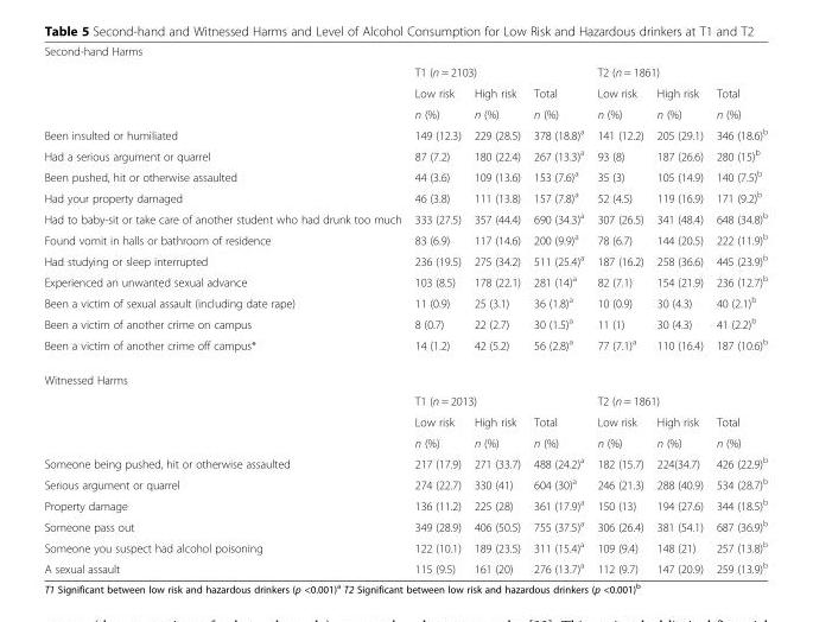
<table><tbody><tr><td colspan="7">Second-hand Harms</td></tr><tr><td></td><td colspan="3">T1 (n = 2103)</td><td colspan="3">T2 (n = 1861)</td></tr><tr><td rowspan="2"></td><td>Low risk</td><td>High risk</td><td>Total</td><td>Low risk</td><td>High risk</td><td>Total</td></tr><tr><td>n (%)</td><td>n (%)</td><td>n (%)</td><td>n (%)</td><td>n (%)</td><td>n (%)</td></tr><tr><td>Been insulted or humiliated</td><td>149 (12.3)</td><td>229 (28.5)</td><td>378 (18.8)<sup>a</sup></td><td>141 (12.2)</td><td>205 (29.1)</td><td>346 (18.6)<sup>b</sup></td></tr><tr><td>Had a serious argument or quarrel</td><td>87 (7.2)</td><td>180 (22.4)</td><td>267 (13.3)<sup>a</sup></td><td>93 (8)</td><td>187 (26.6)</td><td>280 (15)<sup>b</sup></td></tr><tr><td>Been pushed, hit or otherwise assaulted</td><td>44 (3.6)</td><td>109 (13.6)</td><td>153 (7.6)<sup>a</sup></td><td>35 (3)</td><td>105 (14.9)</td><td>140 (7.5)<sup>b</sup></td></tr><tr><td>Had your property damaged</td><td>46 (3.8)</td><td>111 (13.8)</td><td>157 (7.8)<sup>a</sup></td><td>52 (4.5)</td><td>119 (16.9)</td><td>171 (9.2)<sup>b</sup></td></tr><tr><td>Had to baby-sit or take care of another student who had drunk too much</td><td>333 (27.5)</td><td>357 (44.4)</td><td>690 (34.3)<sup>a</sup></td><td>307 (26.5)</td><td>341 (48.4)</td><td>648 (34.8)<sup>b</sup></td></tr><tr><td>Found vomit in halls or bathroom of residence</td><td>83 (6.9)</td><td>117 (14.6)</td><td>200 (9.9)<sup>a</sup></td><td>78 (6.7)</td><td>144 (20.5)</td><td>222 (11.9)<sup>b</sup></td></tr><tr><td>Had studying or sleep interrupted</td><td>236 (19.5)</td><td>275 (34.2)</td><td>511 (25.4)<sup>a</sup></td><td>187 (16.2)</td><td>258 (36.6)</td><td>445 (23.9)<sup>b</sup></td></tr><tr><td>Experienced an unwanted sexual advance</td><td>103 (8.5)</td><td>178 (22.1)</td><td>281 (14)<sup>a</sup></td><td>82 (7.1)</td><td>154 (21.9)</td><td>236 (12.7)<sup>b</sup></td></tr><tr><td>Been a victim of sexual assault (including date rape)</td><td>11 (0.9)</td><td>25 (3.1)</td><td>36 (1.8)<sup>a</sup></td><td>10 (0.9)</td><td>30 (4.3)</td><td>40 (2.1)<sup>b</sup></td></tr><tr><td>Been a victim of another crime on campus</td><td>8 (0.7)</td><td>22 (2.7)</td><td>30 (1.5)<sup>a</sup></td><td>11 (1)</td><td>30 (4.3)</td><td>41 (2.2)<sup>b</sup></td></tr><tr><td>Been a victim of another crime off campus*</td><td>14 (1.2)</td><td>42 (5.2)</td><td>56 (2.8)<sup>a</sup></td><td>77 (7.1)<sup>a</sup></td><td>110 (16.4)</td><td>187 (10.6)<sup>b</sup></td></tr><tr><td colspan="7">Witnessed Harms</td></tr><tr><td></td><td colspan="3">T1 (n = 2013)</td><td colspan="3">T2 (n = 1861)</td></tr><tr><td rowspan="2"></td><td>Low risk</td><td>High risk</td><td>Total</td><td>Low risk</td><td>High risk</td><td>Total</td></tr><tr><td>n (%)</td><td>n (%)</td><td>n (%)</td><td>n (%)</td><td>n (%)</td><td>n (%)</td></tr><tr><td>Someone being pushed, hit or otherwise assaulted</td><td>217 (17.9)</td><td>271 (33.7)</td><td>488 (24.2)<sup>a</sup></td><td>182 (15.7)</td><td>224(34.7)</td><td>426 (22.9)<sup>b</sup></td></tr><tr><td>Serious argument or quarrel</td><td>274 (22.7)</td><td>330 (41)</td><td>604 (30)<sup>a</sup></td><td>246 (21.3)</td><td>288 (40.9)</td><td>534 (28.7)<sup>b</sup></td></tr><tr><td>Property damage</td><td>136 (11.2)</td><td>225 (28)</td><td>361 (17.9)<sup>a</sup></td><td>150 (13)</td><td>194 (27.6)</td><td>344 (18.5)<sup>b</sup></td></tr><tr><td>Someone pass out</td><td>349 (28.9)</td><td>406 (50.5)</td><td>755 (37.5)<sup>a</sup></td><td>306 (26.4)</td><td>381 (54.1)</td><td>687 (36.9)<sup>b</sup></td></tr><tr><td>Someone you suspect had alcohol poisoning</td><td>122 (10.1)</td><td>189 (23.5)</td><td>311 (15.4)<sup>a</sup></td><td>109 (9.4)</td><td>148 (21)</td><td>257 (13.8)<sup>b</sup></td></tr><tr><td>A sexual assault</td><td>115 (9.5)</td><td>161 (20)</td><td>276 (13.7)<sup>a</sup></td><td>112 (9.7)</td><td>147 (20.9)</td><td>259 (13.9)<sup>b</sup></td></tr></tbody></table>